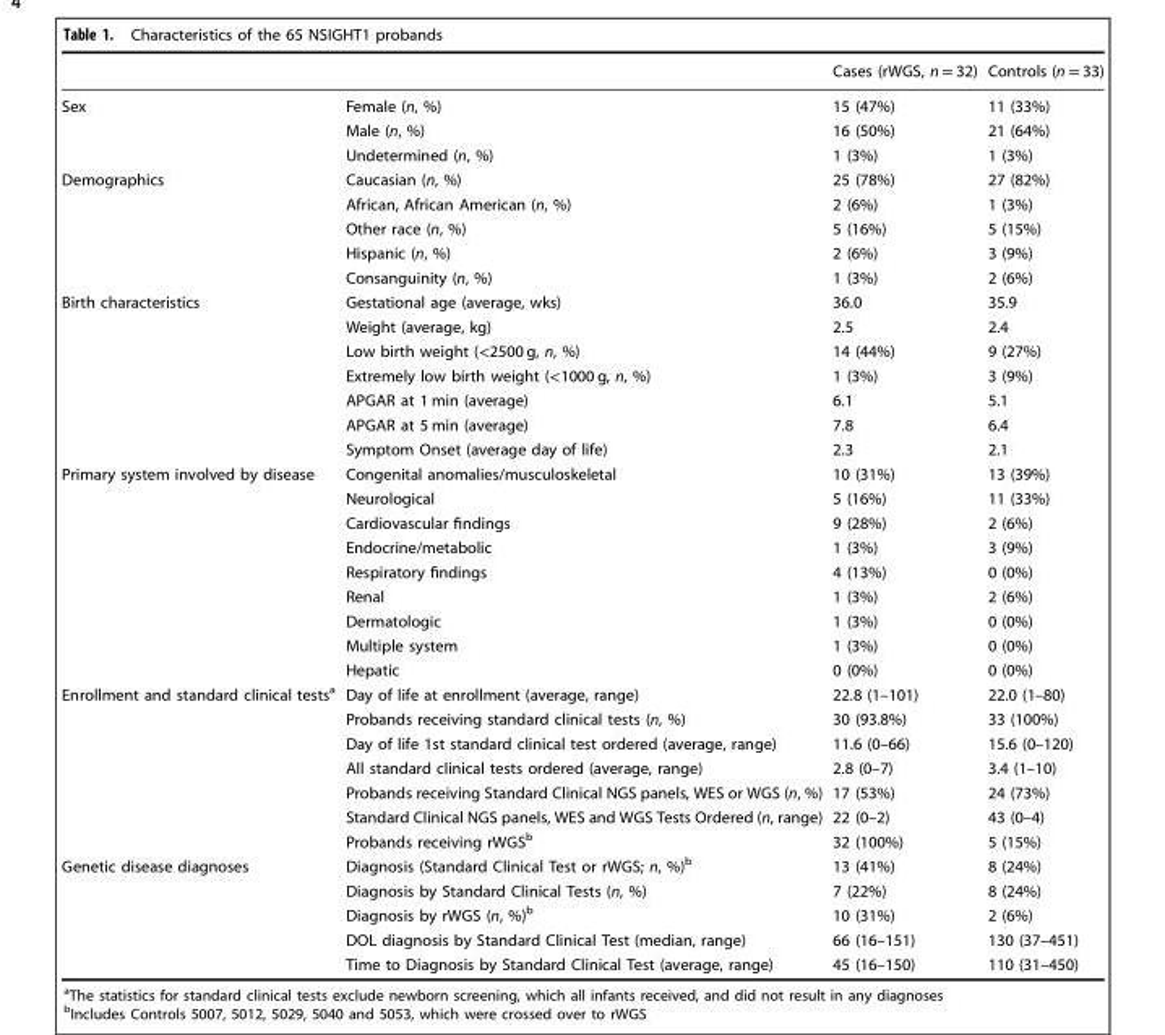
<table><thead><tr><td></td><td></td><td>Cases (rWGS, n = 32)</td><td>Controls (n = 33)</td></tr></thead><tbody><tr><td rowspan="3">Sex</td><td>Female (n, %)</td><td>15 (47%)</td><td>11 (33%)</td></tr><tr><td>Male (n, %)</td><td>16 (50%)</td><td>21 (64%)</td></tr><tr><td>Undetermined (n, %)</td><td>1 (3%)</td><td>1 (3%)</td></tr><tr><td rowspan="5">Demographics</td><td>Caucasian (n, %)</td><td>25 (78%)</td><td>27 (82%)</td></tr><tr><td>African, African American (n, %)</td><td>2 (6%)</td><td>1 (3%)</td></tr><tr><td>Other race (n, %)</td><td>5 (16%)</td><td>5 (15%)</td></tr><tr><td>Hispanic (n, %)</td><td>2 (6%)</td><td>3 (9%)</td></tr><tr><td>Consanguinity (n, %)</td><td>1 (3%)</td><td>2 (6%)</td></tr><tr><td rowspan="7">Birth characteristics</td><td>Gestational age (average, wks)</td><td>36.0</td><td>35.9</td></tr><tr><td>Weight (average, kg)</td><td>2.5</td><td>2.4</td></tr><tr><td>Low birth weight (&lt;2500 g, n, %)</td><td>14 (44%)</td><td>9 (27%)</td></tr><tr><td>Extremely low birth weight (&lt;1000 g, n, %)</td><td>1 (3%)</td><td>3 (9%)</td></tr><tr><td>APGAR at 1 min (average)</td><td>6.1</td><td>5.1</td></tr><tr><td>APGAR at 5 min (average)</td><td>7.8</td><td>6.4</td></tr><tr><td>Symptom Onset (average day of life)</td><td>2.3</td><td>2.1</td></tr><tr><td rowspan="9">Primary system involved by disease</td><td>Congenital anomalies/musculoskeletal</td><td>10 (31%)</td><td>13 (39%)</td></tr><tr><td>Neurological</td><td>5 (16%)</td><td>11 (33%)</td></tr><tr><td>Cardiovascular findings</td><td>9 (28%)</td><td>2 (6%)</td></tr><tr><td>Endocrine/metabolic</td><td>1 (3%)</td><td>3 (9%)</td></tr><tr><td>Respiratory findings</td><td>4 (13%)</td><td>0 (0%)</td></tr><tr><td>Renal</td><td>1 (3%)</td><td>2 (6%)</td></tr><tr><td>Dermatologic</td><td>1 (3%)</td><td>0 (0%)</td></tr><tr><td>Multiple system</td><td>1 (3%)</td><td>0 (0%)</td></tr><tr><td>Hepatic</td><td>0 (0%)</td><td>0 (0%)</td></tr><tr><td rowspan="7">Enrollment and standard clinical tests<sup>a</sup></td><td>Day of life at enrollment (average, range)</td><td>22.8 (1–101)</td><td>22.0 (1–80)</td></tr><tr><td>Probands receiving standard clinical tests (n, %)</td><td>30 (93.8%)</td><td>33 (100%)</td></tr><tr><td>Day of life 1st standard clinical test ordered (average, range)</td><td>11.6 (0–66)</td><td>15.6 (0–120)</td></tr><tr><td>All standard clinical tests ordered (average, range)</td><td>2.8 (0–7)</td><td>3.4 (1–10)</td></tr><tr><td>Probands receiving Standard Clinical NGS panels, WES or WGS (n, %)</td><td>17 (53%)</td><td>24 (73%)</td></tr><tr><td>Standard Clinical NGS panels, WES and WGS Tests Ordered (n, range)</td><td>22 (0–2)</td><td>43 (0–4)</td></tr><tr><td>Probands receiving rWGS<sup>b</sup></td><td>32 (100%)</td><td>5 (15%)</td></tr><tr><td rowspan="5">Genetic disease diagnoses</td><td>Diagnosis (Standard Clinical Test or rWGS; n, %)<sup>b</sup></td><td>13 (41%)</td><td>8 (24%)</td></tr><tr><td>Diagnosis by Standard Clinical Tests (n, %)</td><td>7 (22%)</td><td>8 (24%)</td></tr><tr><td>Diagnosis by rWGS (n, %)<sup>b</sup></td><td>10 (31%)</td><td>2 (6%)</td></tr><tr><td>DOL diagnosis by Standard Clinical Test (median, range)</td><td>66 (16–151)</td><td>130 (37–451)</td></tr><tr><td>Time to Diagnosis by Standard Clinical Test (average, range)</td><td>45 (16–150)</td><td>110 (31–450)</td></tr></tbody></table>